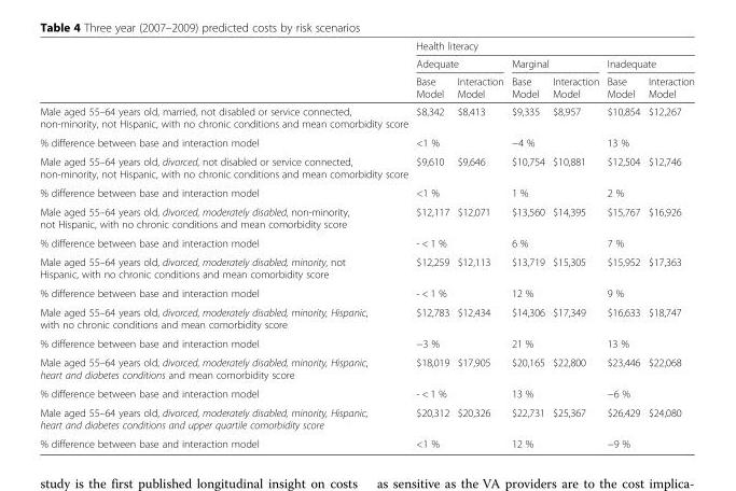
<table><thead><tr><td rowspan="3"></td><td colspan="6">Health literacy</td></tr><tr><td colspan="2">Adequate</td><td colspan="2">Marginal</td><td colspan="2">Inadequate</td></tr><tr><td>Base Model</td><td>Interaction Model</td><td>Base Model</td><td>Interaction Model</td><td>Base Model</td><td>Interaction Model</td></tr></thead><tbody><tr><td>Male aged 55–64 years old, married, not disabled or service connected, non-minority, not Hispanic, with no chronic conditions and mean comorbidity score</td><td>$8,342</td><td>$8,413</td><td>$9,335</td><td>$8,957</td><td>$10,854</td><td>$12,267</td></tr><tr><td>% difference between base and interaction model</td><td colspan="2">&lt;1 %</td><td colspan="2">−4 %</td><td colspan="2">13 %</td></tr><tr><td>Male aged 55–64 years old, divorced, not disabled or service connected, non-minority, not Hispanic, with no chronic conditions and mean comorbidity score</td><td>$9,610</td><td>$9,646</td><td>$10,754</td><td>$10,881</td><td>$12,504</td><td>$12,746</td></tr><tr><td>% difference between base and interaction model</td><td colspan="2">&lt;1 %</td><td colspan="2">1 %</td><td colspan="2">2 %</td></tr><tr><td>Male aged 55–64 years old, divorced, moderately disabled, non-minority, not Hispanic, with no chronic conditions and mean comorbidity score</td><td>$12,117</td><td>$12,071</td><td>$13,560</td><td>$14,395</td><td>$15,767</td><td>$16,926</td></tr><tr><td>% difference between base and interaction model</td><td colspan="2">- &lt; 1 %</td><td colspan="2">6 %</td><td colspan="2">7 %</td></tr><tr><td>Male aged 55–64 years old, divorced, moderately disabled, minority, not Hispanic, with no chronic conditions and mean comorbidity score</td><td>$12,259</td><td>$12,113</td><td>$13,719</td><td>$15,305</td><td>$15,952</td><td>$17,363</td></tr><tr><td>% difference between base and interaction model</td><td colspan="2">- &lt; 1 %</td><td colspan="2">12 %</td><td colspan="2">9 %</td></tr><tr><td>Male aged 55–64 years old, divorced, moderately disabled, minority, Hispanic, with no chronic conditions and mean comorbidity score</td><td>$12,783</td><td>$12,434</td><td>$14,306</td><td>$17,349</td><td>$16,633</td><td>$18,747</td></tr><tr><td>% difference between base and interaction model</td><td colspan="2">−3 %</td><td colspan="2">21 %</td><td colspan="2">13 %</td></tr><tr><td>Male aged 55–64 years old, divorced, moderately disabled, minority, Hispanic, heart and diabetes conditions and mean comorbidity score</td><td>$18,019</td><td>$17,905</td><td>$20,165</td><td>$22,800</td><td>$23,446</td><td>$22,068</td></tr><tr><td>% difference between base and interaction model</td><td colspan="2">- &lt; 1 %</td><td colspan="2">13 %</td><td colspan="2">−6 %</td></tr><tr><td>Male aged 55–64 years old, divorced, moderately disabled, minority, Hispanic, heart and diabetes conditions and upper quartile comorbidity score</td><td>$20,312</td><td>$20,326</td><td>$22,731</td><td>$25,367</td><td>$26,429</td><td>$24,080</td></tr><tr><td>% difference between base and interaction model</td><td colspan="2">&lt;1 %</td><td colspan="2">12 %</td><td colspan="2">−9 %</td></tr></tbody></table>